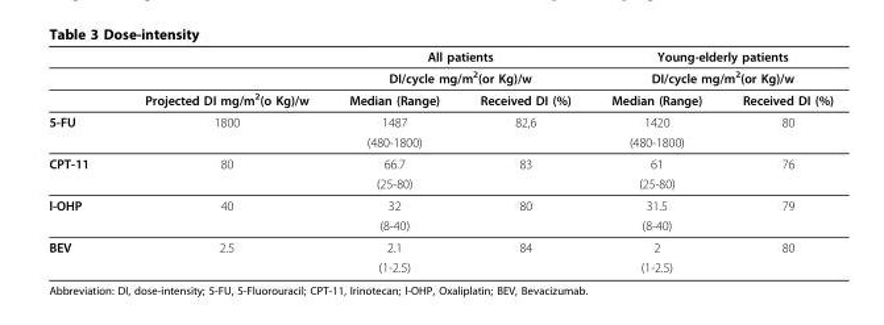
<table><thead><tr><td rowspan="3"></td><td rowspan="3">Projected DI mg/m<sup>2</sup>(o Kg)/w</td><td rowspan="2" colspan="2">All patients DI/cycle mg/m2(or Kg)/w</td><td rowspan="2" colspan="2">Young-elderly patients DI/cycle mg/m2(or Kg)/w</td></tr><tr></tr><tr><td>Median (Range)</td><td>Received DI (%)</td><td>Median (Range)</td><td>Received DI (%)</td></tr></thead><tbody><tr><td rowspan="2">5-FU</td><td>1800</td><td>1487</td><td>82,6</td><td>1420</td><td>80</td></tr><tr><td></td><td>(480-1800)</td><td></td><td>(480-1800)</td><td></td></tr><tr><td rowspan="2">CPT-11</td><td>80</td><td>66.7</td><td>83</td><td>61</td><td>76</td></tr><tr><td></td><td>(25-80)</td><td></td><td>(25-80)</td><td></td></tr><tr><td rowspan="2">l-OHP</td><td>40</td><td>32</td><td>80</td><td>31.5</td><td>79</td></tr><tr><td></td><td>(8-40)</td><td></td><td>(8-40)</td><td></td></tr><tr><td rowspan="2">BEV</td><td>2.5</td><td>2.1</td><td>84</td><td>2</td><td>80</td></tr><tr><td></td><td>(1-2.5)</td><td></td><td>(1-2.5)</td><td></td></tr></tbody></table>